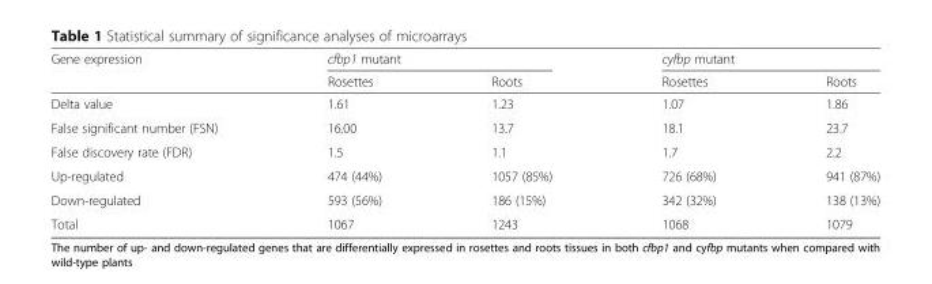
<table><thead><tr><td rowspan="2">Gene expression</td><td colspan="2">cfbp1 mutant</td><td colspan="2">cyfbp mutant</td></tr><tr><td>Rosettes</td><td>Roots</td><td>Rosettes</td><td>Roots</td></tr></thead><tbody><tr><td>Delta value</td><td>1.61</td><td>1.23</td><td>1.07</td><td>1.86</td></tr><tr><td>False significant number (FSN)</td><td>16.00</td><td>13.7</td><td>18.1</td><td>23.7</td></tr><tr><td>False discovery rate (FDR)</td><td>1.5</td><td>1.1</td><td>1.7</td><td>2.2</td></tr><tr><td>Up-regulated</td><td>474 (44%)</td><td>1057 (85%)</td><td>726 (68%)</td><td>941 (87%)</td></tr><tr><td>Down-regulated</td><td>593 (56%)</td><td>186 (15%)</td><td>342 (32%)</td><td>138 (13%)</td></tr><tr><td>Total</td><td>1067</td><td>1243</td><td>1068</td><td>1079</td></tr></tbody></table>